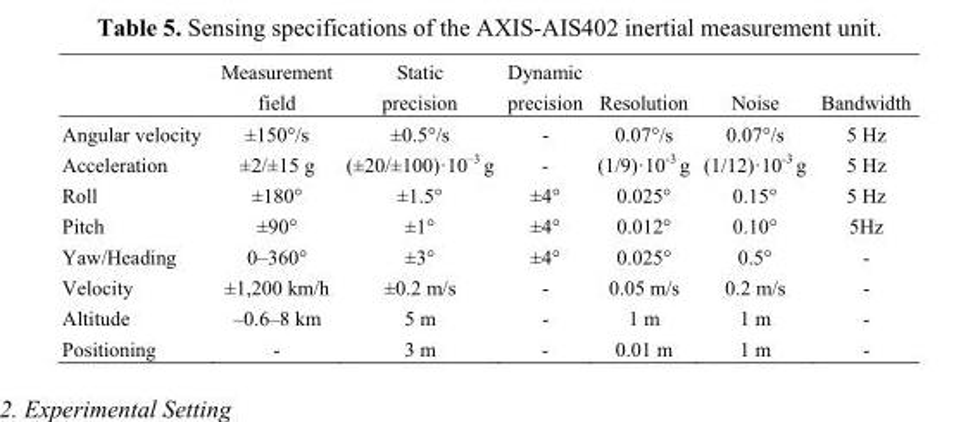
<table><thead><tr><td></td><td>Measurement field</td><td>Static precision</td><td>Dynamic precision</td><td>Resolution</td><td>Noise</td><td>Bandwidth</td></tr></thead><tbody><tr><td>Angular velocity</td><td>±150°/s</td><td>±0.5°/s</td><td>-</td><td>0.07°/s</td><td>0.07°/s</td><td>5 Hz</td></tr><tr><td>Acceleration</td><td>±2/±15 g</td><td>(±20/±100)·10<sup>–3</sup> g</td><td>-</td><td>(1/9)·10<sup>-3</sup> g</td><td>(1/12)·10<sup>-3</sup> g</td><td>5 Hz</td></tr><tr><td>Roll</td><td>±180°</td><td>±1.5°</td><td>±4°</td><td>0.025°</td><td>0.15°</td><td>5 Hz</td></tr><tr><td>Pitch</td><td>±90°</td><td>±1°</td><td>±4°</td><td>0.012°</td><td>0.10°</td><td>5Hz</td></tr><tr><td>Yaw/Heading</td><td>0–360°</td><td>±3°</td><td>±4°</td><td>0.025°</td><td>0.5°</td><td>-</td></tr><tr><td>Velocity</td><td>±1,200 km/h</td><td>±0.2 m/s</td><td>-</td><td>0.05 m/s</td><td>0.2 m/s</td><td>-</td></tr><tr><td>Altitude</td><td>–0.6–8 km</td><td>5 m</td><td>-</td><td>1 m</td><td>1 m</td><td>-</td></tr><tr><td>Positioning</td><td>-</td><td>3 m</td><td>-</td><td>0.01 m</td><td>1 m</td><td>-</td></tr></tbody></table>